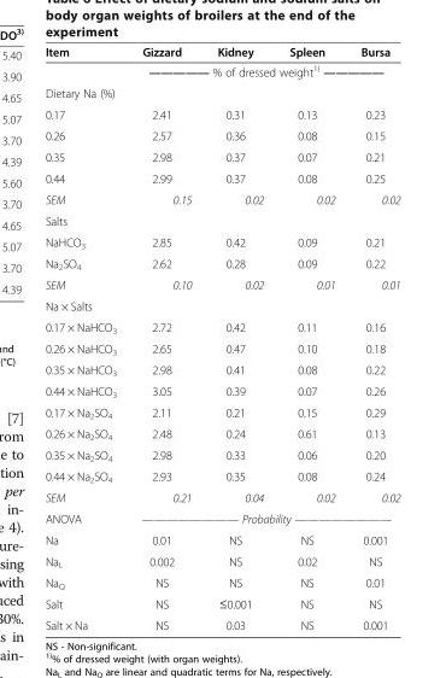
<table><thead><tr><td>Item</td><td>Gizzard</td><td>Kidney</td><td>Spleen</td><td>Bursa</td></tr></thead><tbody><tr><td></td><td colspan="4">————— % of dressed weight<sup>1)</sup> —————</td></tr><tr><td colspan="5">Dietary Na (%)</td></tr><tr><td>0.17</td><td>2.41</td><td>0.31</td><td>0.13</td><td>0.23</td></tr><tr><td>0.26</td><td>2.57</td><td>0.36</td><td>0.08</td><td>0.15</td></tr><tr><td>0.35</td><td>2.98</td><td>0.37</td><td>0.07</td><td>0.21</td></tr><tr><td>0.44</td><td>2.99</td><td>0.37</td><td>0.08</td><td>0.25</td></tr><tr><td>SEM</td><td>0.15</td><td>0.02</td><td>0.02</td><td>0.02</td></tr><tr><td colspan="5">Salts</td></tr><tr><td>NaHCO<sub>3</sub></td><td>2.85</td><td>0.42</td><td>0.09</td><td>0.21</td></tr><tr><td>Na<sub>2</sub>SO<sub>4</sub></td><td>2.62</td><td>0.28</td><td>0.09</td><td>0.22</td></tr><tr><td>SEM</td><td>0.10</td><td>0.02</td><td>0.01</td><td>0.01</td></tr><tr><td colspan="5">Na × Salts</td></tr><tr><td>0.17 × NaHCO<sub>3</sub></td><td>2.72</td><td>0.42</td><td>0.11</td><td>0.16</td></tr><tr><td>0.26 × NaHCO<sub>3</sub></td><td>2.65</td><td>0.47</td><td>0.10</td><td>0.18</td></tr><tr><td>0.35 × NaHCO<sub>3</sub></td><td>2.98</td><td>0.41</td><td>0.08</td><td>0.22</td></tr><tr><td>0.44 × NaHCO<sub>3</sub></td><td>3.05</td><td>0.39</td><td>0.07</td><td>0.26</td></tr><tr><td>0.17 × Na<sub>2</sub>SO<sub>4</sub></td><td>2.11</td><td>0.21</td><td>0.15</td><td>0.29</td></tr><tr><td>0.26 × Na<sub>2</sub>SO<sub>4</sub></td><td>2.48</td><td>0.24</td><td>0.61</td><td>0.13</td></tr><tr><td>0.35 × Na<sub>2</sub>SO<sub>4</sub></td><td>2.98</td><td>0.33</td><td>0.06</td><td>0.20</td></tr><tr><td>0.44 × Na<sub>2</sub>SO<sub>4</sub></td><td>2.93</td><td>0.35</td><td>0.08</td><td>0.24</td></tr><tr><td>SEM</td><td>0.21</td><td>0.04</td><td>0.02</td><td>0.02</td></tr><tr><td>ANOVA</td><td colspan="4">———————— Probability ————————</td></tr><tr><td>Na</td><td>0.01</td><td>NS</td><td>NS</td><td>0.001</td></tr><tr><td>Na<sub>L</sub></td><td>0.002</td><td>NS</td><td>0.02</td><td>NS</td></tr><tr><td>Na<sub>Q</sub></td><td>NS</td><td>NS</td><td>NS</td><td>0.01</td></tr><tr><td>Salt</td><td>NS</td><td>≤0.001</td><td>NS</td><td>NS</td></tr><tr><td>Salt × Na</td><td>NS</td><td>0.03</td><td>NS</td><td>0.001</td></tr></tbody></table>